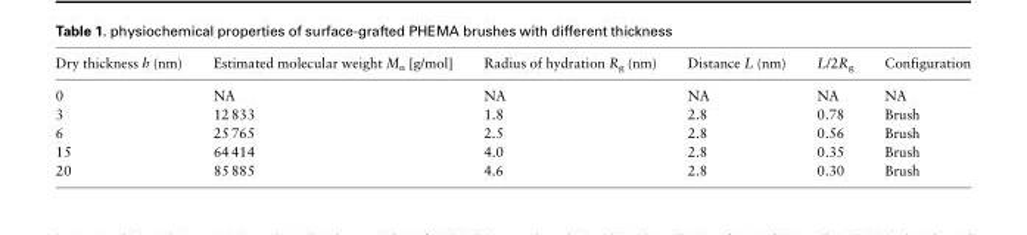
<table><thead><tr><td>Dry thickness h (nm)</td><td>Estimated molecular weight M<sub>n</sub> [g/mol]</td><td>Radius of hydration R<sub>g</sub> (nm)</td><td>Distance L (nm)</td><td>L/2R<sub>g</sub></td><td>Configuration</td></tr></thead><tbody><tr><td>0</td><td>NA</td><td>NA</td><td>NA</td><td>NA</td><td>NA</td></tr><tr><td>3</td><td>12 833</td><td>1.8</td><td>2.8</td><td>0.78</td><td>Brush</td></tr><tr><td>6</td><td>25 765</td><td>2.5</td><td>2.8</td><td>0.56</td><td>Brush</td></tr><tr><td>15</td><td>64 414</td><td>4.0</td><td>2.8</td><td>0.35</td><td>Brush</td></tr><tr><td>20</td><td>85 885</td><td>4.6</td><td>2.8</td><td>0.30</td><td>Brush</td></tr></tbody></table>